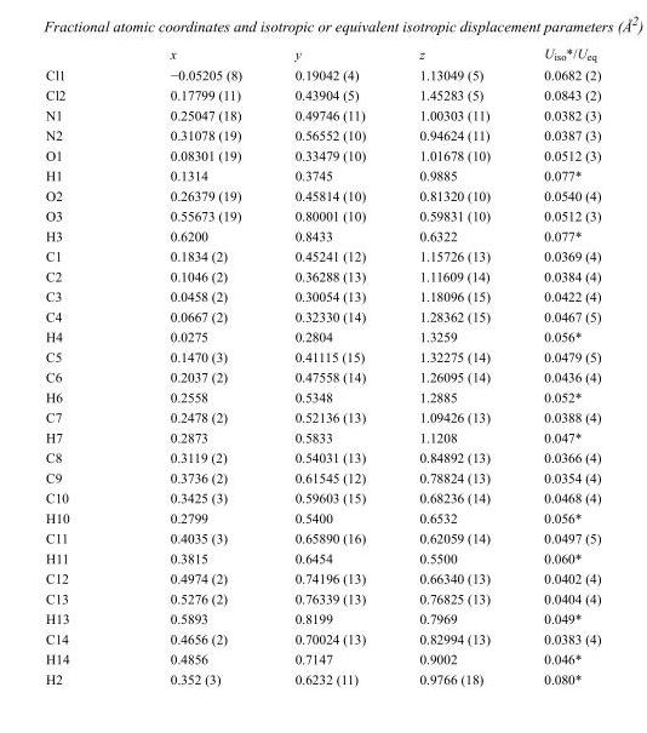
<table><thead><tr><td></td><td>x</td><td>y</td><td>z</td><td>U<sub>iso</sub>*/U<sub>eq</sub></td></tr></thead><tbody><tr><td>Cl1</td><td>−0.05205 (8)</td><td>0.19042 (4)</td><td>1.13049 (5)</td><td>0.0682 (2)</td></tr><tr><td>Cl2</td><td>0.17799 (11)</td><td>0.43904 (5)</td><td>1.45283 (5)</td><td>0.0843 (2)</td></tr><tr><td>N1</td><td>0.25047 (18)</td><td>0.49746 (11)</td><td>1.00303 (11)</td><td>0.0382 (3)</td></tr><tr><td>N2</td><td>0.31078 (19)</td><td>0.56552 (10)</td><td>0.94624 (11)</td><td>0.0387 (3)</td></tr><tr><td>O1</td><td>0.08301 (19)</td><td>0.33479 (10)</td><td>1.01678 (10)</td><td>0.0512 (3)</td></tr><tr><td>H1</td><td>0.1314</td><td>0.3745</td><td>0.9885</td><td>0.077*</td></tr><tr><td>O2</td><td>0.26379 (19)</td><td>0.45814 (10)</td><td>0.81320 (10)</td><td>0.0540 (4)</td></tr><tr><td>O3</td><td>0.55673 (19)</td><td>0.80001 (10)</td><td>0.59831 (10)</td><td>0.0512 (3)</td></tr><tr><td>H3</td><td>0.6200</td><td>0.8433</td><td>0.6322</td><td>0.077*</td></tr><tr><td>C1</td><td>0.1834 (2)</td><td>0.45241 (12)</td><td>1.15726 (13)</td><td>0.0369 (4)</td></tr><tr><td>C2</td><td>0.1046 (2)</td><td>0.36288 (13)</td><td>1.11609 (14)</td><td>0.0384 (4)</td></tr><tr><td>C3</td><td>0.0458 (2)</td><td>0.30054 (13)</td><td>1.18096 (15)</td><td>0.0422 (4)</td></tr><tr><td>C4</td><td>0.0667 (2)</td><td>0.32330 (14)</td><td>1.28362 (15)</td><td>0.0467 (5)</td></tr><tr><td>H4</td><td>0.0275</td><td>0.2804</td><td>1.3259</td><td>0.056*</td></tr><tr><td>C5</td><td>0.1470 (3)</td><td>0.41115 (15)</td><td>1.32275 (14)</td><td>0.0479 (5)</td></tr><tr><td>C6</td><td>0.2037 (2)</td><td>0.47558 (14)</td><td>1.26095 (14)</td><td>0.0436 (4)</td></tr><tr><td>H6</td><td>0.2558</td><td>0.5348</td><td>1.2885</td><td>0.052*</td></tr><tr><td>C7</td><td>0.2478 (2)</td><td>0.52136 (13)</td><td>1.09426 (13)</td><td>0.0388 (4)</td></tr><tr><td>H7</td><td>0.2873</td><td>0.5833</td><td>1.1208</td><td>0.047*</td></tr><tr><td>C8</td><td>0.3119 (2)</td><td>0.54031 (13)</td><td>0.84892 (13)</td><td>0.0366 (4)</td></tr><tr><td>C9</td><td>0.3736 (2)</td><td>0.61545 (12)</td><td>0.78824 (13)</td><td>0.0354 (4)</td></tr><tr><td>C10</td><td>0.3425 (3)</td><td>0.59603 (15)</td><td>0.68236 (14)</td><td>0.0468 (4)</td></tr><tr><td>H10</td><td>0.2799</td><td>0.5400</td><td>0.6532</td><td>0.056*</td></tr><tr><td>C11</td><td>0.4035 (3)</td><td>0.65890 (16)</td><td>0.62059 (14)</td><td>0.0497 (5)</td></tr><tr><td>H11</td><td>0.3815</td><td>0.6454</td><td>0.5500</td><td>0.060*</td></tr><tr><td>C12</td><td>0.4974 (2)</td><td>0.74196 (13)</td><td>0.66340 (13)</td><td>0.0402 (4)</td></tr><tr><td>C13</td><td>0.5276 (2)</td><td>0.76339 (13)</td><td>0.76825 (13)</td><td>0.0404 (4)</td></tr><tr><td>H13</td><td>0.5893</td><td>0.8199</td><td>0.7969</td><td>0.049*</td></tr><tr><td>C14</td><td>0.4656 (2)</td><td>0.70024 (13)</td><td>0.82994 (13)</td><td>0.0383 (4)</td></tr><tr><td>H14</td><td>0.4856</td><td>0.7147</td><td>0.9002</td><td>0.046*</td></tr><tr><td>H2</td><td>0.352 (3)</td><td>0.6232 (11)</td><td>0.9766 (18)</td><td>0.080*</td></tr></tbody></table>